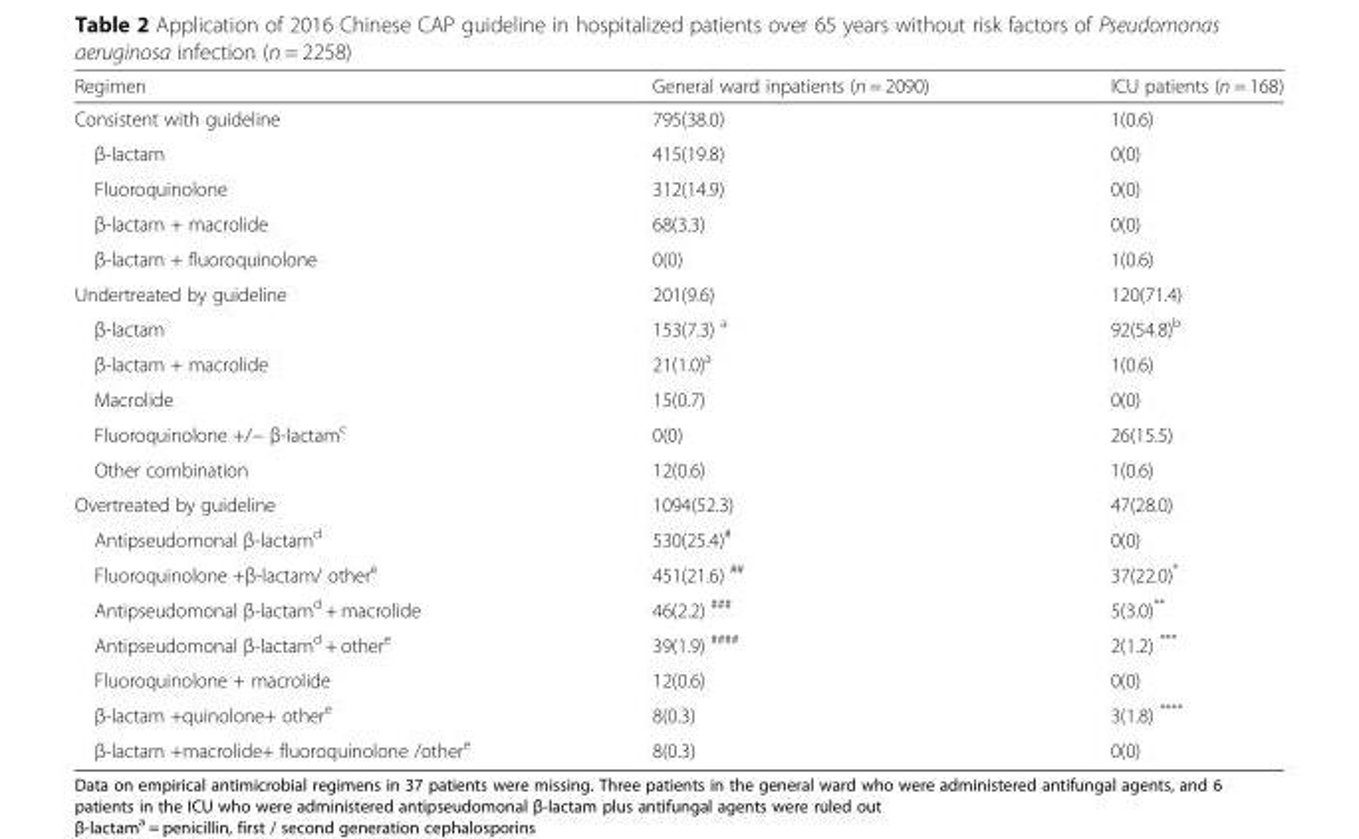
<table><thead><tr><td>Regimen</td><td>General ward inpatients (n = 2090)</td><td>ICU patients (n = 168)</td></tr></thead><tbody><tr><td>Consistent with guideline</td><td>795(38.0)</td><td>1(0.6)</td></tr><tr><td>β-lactam</td><td>415(19.8)</td><td>0(0)</td></tr><tr><td>Fluoroquinolone</td><td>312(14.9)</td><td>0(0)</td></tr><tr><td>β-lactam + macrolide</td><td>68(3.3)</td><td>0(0)</td></tr><tr><td>β-lactam + fluoroquinolone</td><td>0(0)</td><td>1(0.6)</td></tr><tr><td>Undertreated by guideline</td><td>201(9.6)</td><td>120(71.4)</td></tr><tr><td>β-lactam</td><td>153(7.3) <sup>a</sup></td><td>92(54.8)<sup>b</sup></td></tr><tr><td>β-lactam + macrolide</td><td>21(1.0)<sup>a</sup></td><td>1(0.6)</td></tr><tr><td>Macrolide</td><td>15(0.7)</td><td>0(0)</td></tr><tr><td>Fluoroquinolone +/− β-lactam<sup>c</sup></td><td>0(0)</td><td>26(15.5)</td></tr><tr><td>Other combination</td><td>12(0.6)</td><td>1(0.6)</td></tr><tr><td>Overtreated by guideline</td><td>1094(52.3)</td><td>47(28.0)</td></tr><tr><td>Antipseudomonal β-lactam<sup>d</sup></td><td>530(25.4)<sup>#</sup></td><td>0(0)</td></tr><tr><td>Fluoroquinolone +β-lactam/ other<sup>e</sup></td><td>451(21.6) <sup>##</sup></td><td>37(22.0)*</td></tr><tr><td>Antipseudomonal β-lactam<sup>d</sup> + macrolide</td><td>46(2.2) <sup>###</sup></td><td>5(3.0)**</td></tr><tr><td>Antipseudomonal β-lactam<sup>d</sup> + other<sup>e</sup></td><td>39(1.9) <sup>####</sup></td><td>2(1.2) ***</td></tr><tr><td>Fluoroquinolone + macrolide</td><td>12(0.6)</td><td>0(0)</td></tr><tr><td>β-lactam +quinolone+ other<sup>e</sup></td><td>8(0.3)</td><td>3(1.8) ****</td></tr><tr><td>β-lactam +macrolide+ fluoroquinolone /other<sup>e</sup></td><td>8(0.3)</td><td>0(0)</td></tr></tbody></table>